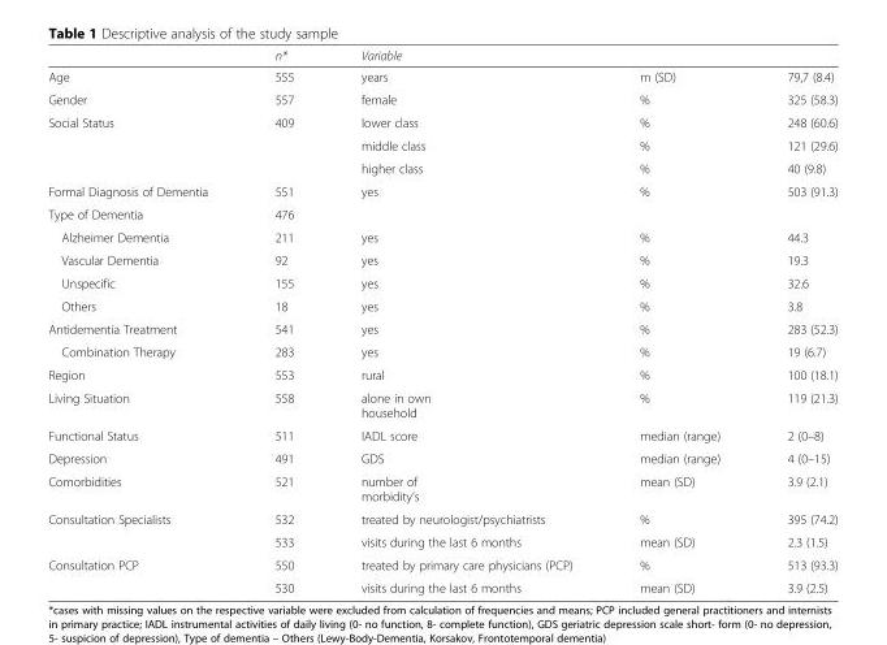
<table><thead><tr><td></td><td>n*</td><td>Variable</td><td></td><td></td></tr></thead><tbody><tr><td>Age</td><td>555</td><td>years</td><td>m (SD)</td><td>79,7 (8.4)</td></tr><tr><td>Gender</td><td>557</td><td>female</td><td>%</td><td>325 (58.3)</td></tr><tr><td rowspan="3">Social Status</td><td rowspan="3">409</td><td>lower class</td><td>%</td><td>248 (60.6)</td></tr><tr><td>middle class</td><td>%</td><td>121 (29.6)</td></tr><tr><td>higher class</td><td>%</td><td>40 (9.8)</td></tr><tr><td>Formal Diagnosis of Dementia</td><td>551</td><td>yes</td><td>%</td><td>503 (91.3)</td></tr><tr><td>Type of Dementia</td><td>476</td><td></td><td></td><td></td></tr><tr><td>Alzheimer Dementia</td><td>211</td><td>yes</td><td>%</td><td>44.3</td></tr><tr><td>Vascular Dementia</td><td>92</td><td>yes</td><td>%</td><td>19.3</td></tr><tr><td>Unspecific</td><td>155</td><td>yes</td><td>%</td><td>32.6</td></tr><tr><td>Others</td><td>18</td><td>yes</td><td>%</td><td>3.8</td></tr><tr><td>Antidementia Treatment</td><td>541</td><td>yes</td><td>%</td><td>283 (52.3)</td></tr><tr><td>Combination Therapy</td><td>283</td><td>yes</td><td>%</td><td>19 (6.7)</td></tr><tr><td>Region</td><td>553</td><td>rural</td><td>%</td><td>100 (18.1)</td></tr><tr><td>Living Situation</td><td>558</td><td>alone in own household</td><td>%</td><td>119 (21.3)</td></tr><tr><td>Functional Status</td><td>511</td><td>IADL score</td><td>median (range)</td><td>2 (0–8)</td></tr><tr><td>Depression</td><td>491</td><td>GDS</td><td>median (range)</td><td>4 (0–15)</td></tr><tr><td>Comorbidities</td><td>521</td><td>number of morbidity’s</td><td>mean (SD)</td><td>3.9 (2.1)</td></tr><tr><td rowspan="2">Consultation Specialists</td><td>532</td><td>treated by neurologist/psychiatrists</td><td>%</td><td>395 (74.2)</td></tr><tr><td>533</td><td>visits during the last 6 months</td><td>mean (SD)</td><td>2.3 (1.5)</td></tr><tr><td rowspan="2">Consultation PCP</td><td>550</td><td>treated by primary care physicians (PCP)</td><td>%</td><td>513 (93.3)</td></tr><tr><td>530</td><td>visits during the last 6 months</td><td>mean (SD)</td><td>3.9 (2.5)</td></tr></tbody></table>